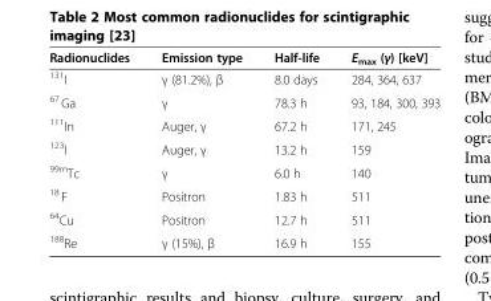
<table><thead><tr><td>Radionuclides</td><td>Emission type</td><td>Half-life</td><td>E<sub>max</sub> (γ) [keV]</td></tr></thead><tbody><tr><td><sup>131</sup>I</td><td>γ (81.2%), β</td><td>8.0 days</td><td>284, 364, 637</td></tr><tr><td><sup>67</sup> Ga</td><td>γ</td><td>78.3 h</td><td>93, 184, 300, 393</td></tr><tr><td><sup>111</sup>In</td><td>Auger, γ</td><td>67.2 h</td><td>171, 245</td></tr><tr><td><sup>123</sup>I</td><td>Auger, γ</td><td>13.2 h</td><td>159</td></tr><tr><td><sup>99m</sup>Tc</td><td>γ</td><td>6.0 h</td><td>140</td></tr><tr><td><sup>18</sup> F</td><td>Positron</td><td>1.83 h</td><td>511</td></tr><tr><td><sup>64</sup>Cu</td><td>Positron</td><td>12.7 h</td><td>511</td></tr><tr><td><sup>188</sup>Re</td><td>γ (15%), β</td><td>16.9 h</td><td>155</td></tr></tbody></table>